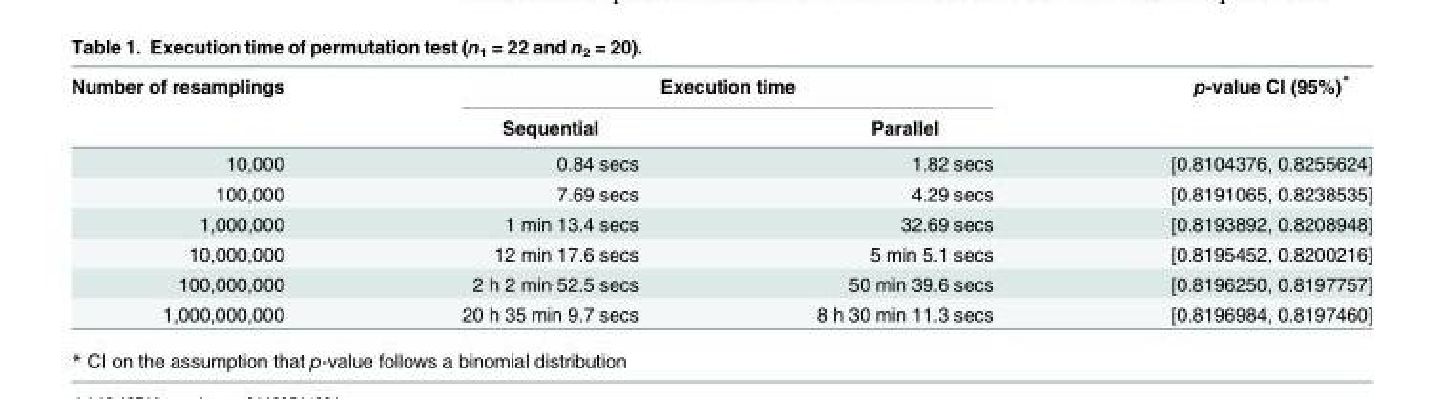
<table><thead><tr><td rowspan="2">Number of resamplings</td><td colspan="2">Execution time</td><td rowspan="2">p-value CI (95%)*</td></tr><tr><td>Sequential</td><td>Parallel</td></tr></thead><tbody><tr><td>10,000</td><td>0.84 secs</td><td>1.82 secs</td><td>[0.8104376, 0.8255624]</td></tr><tr><td>100,000</td><td>7.69 secs</td><td>4.29 secs</td><td>[0.8191065, 0.8238535]</td></tr><tr><td>1,000,000</td><td>1 min 13.4 secs</td><td>32.69 secs</td><td>[0.8193892, 0.8208948]</td></tr><tr><td>10,000,000</td><td>12 min 17.6 secs</td><td>5 min 5.1 secs</td><td>[0.8195452, 0.8200216]</td></tr><tr><td>100,000,000</td><td>2 h 2 min 52.5 secs</td><td>50 min 39.6 secs</td><td>[0.8196250, 0.8197757]</td></tr><tr><td>1,000,000,000</td><td>20 h 35 min 9.7 secs</td><td>8 h 30 min 11.3 secs</td><td>[0.8196984, 0.8197460]</td></tr></tbody></table>